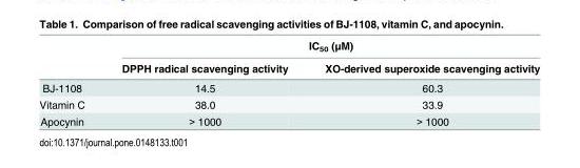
<table><thead><tr><td rowspan="2"></td><td colspan="2">IC<sub>50</sub> (μM)</td></tr><tr><td>DPPH radical scavenging activity</td><td>XO-derived superoxide scavenging activity</td></tr></thead><tbody><tr><td>BJ-1108</td><td>14.5</td><td>60.3</td></tr><tr><td>Vitamin C</td><td>38.0</td><td>33.9</td></tr><tr><td>Apocynin</td><td>&gt; 1000</td><td>&gt; 1000</td></tr></tbody></table>